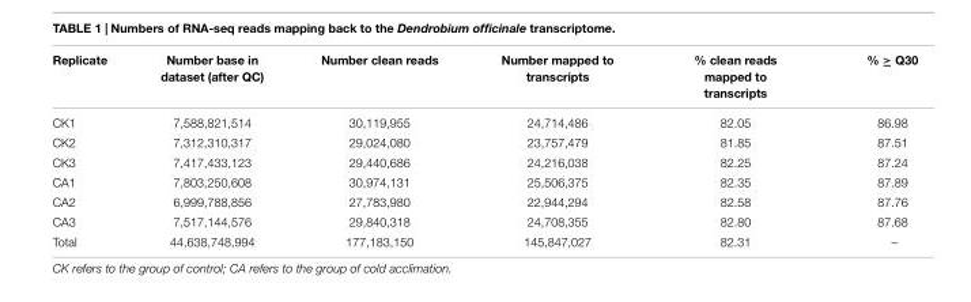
<table><thead><tr><td>Replicate</td><td>Number base in dataset (after QC)</td><td>Number clean reads</td><td>Number mapped to transcripts</td><td>% clean reads mapped to transcripts</td><td>% ≥ Q30</td></tr></thead><tbody><tr><td>CK1</td><td>7,588,821,514</td><td>30,119,955</td><td>24,714,486</td><td>82.05</td><td>86.98</td></tr><tr><td>CK2</td><td>7,312,310,317</td><td>29,024,080</td><td>23,757,479</td><td>81.85</td><td>87.51</td></tr><tr><td>CK3</td><td>7,417,433,123</td><td>29,440,686</td><td>24,216,038</td><td>82.25</td><td>87.24</td></tr><tr><td>CA1</td><td>7,803,250,608</td><td>30,974,131</td><td>25,506,375</td><td>82.35</td><td>87.89</td></tr><tr><td>CA2</td><td>6,999,788,856</td><td>27,783,980</td><td>22,944,294</td><td>82.58</td><td>87.76</td></tr><tr><td>CA3</td><td>7,517,144,576</td><td>29,840,318</td><td>24,708,355</td><td>82.80</td><td>87.68</td></tr><tr><td>Total</td><td>44,638,748,994</td><td>177,183,150</td><td>145,847,027</td><td>82.31</td><td>–</td></tr></tbody></table>